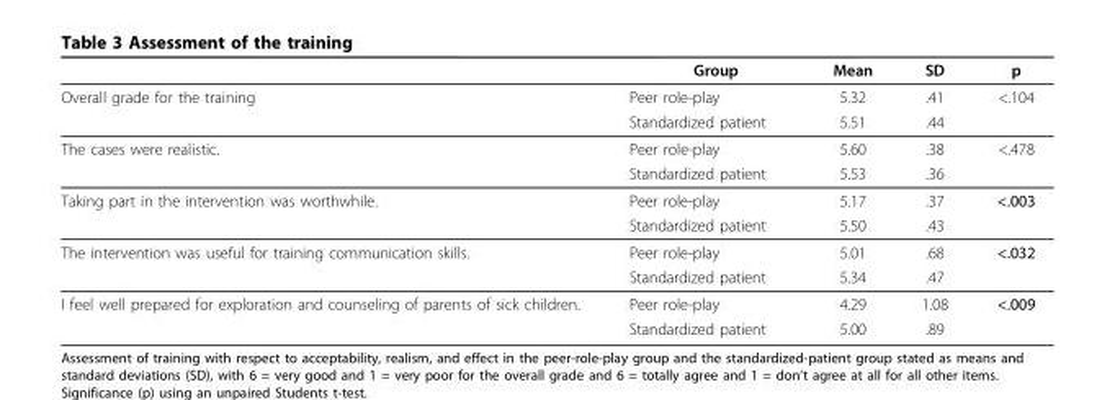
<table><thead><tr><td></td><td>Group</td><td>Mean</td><td>SD</td><td>p</td></tr></thead><tbody><tr><td rowspan="2">Overall grade for the training</td><td>Peer role-play</td><td>5.32</td><td>.41</td><td>&lt;.104</td></tr><tr><td>Standardized patient</td><td>5.51</td><td>.44</td><td></td></tr><tr><td rowspan="2">The cases were realistic.</td><td>Peer role-play</td><td>5.60</td><td>.38</td><td>&lt;.478</td></tr><tr><td>Standardized patient</td><td>5.53</td><td>.36</td><td></td></tr><tr><td rowspan="2">Taking part in the intervention was worthwhile.</td><td>Peer role-play</td><td>5.17</td><td>.37</td><td>&lt;.003</td></tr><tr><td>Standardized patient</td><td>5.50</td><td>.43</td><td></td></tr><tr><td rowspan="2">The intervention was useful for training communication skills.</td><td>Peer role-play</td><td>5.01</td><td>.68</td><td>&lt;.032</td></tr><tr><td>Standardized patient</td><td>5.34</td><td>.47</td><td></td></tr><tr><td rowspan="2">I feel well prepared for exploration and counseling of parents of sick children.</td><td>Peer role-play</td><td>4.29</td><td>1.08</td><td>&lt;.009</td></tr><tr><td>Standardized patient</td><td>5.00</td><td>.89</td><td></td></tr></tbody></table>